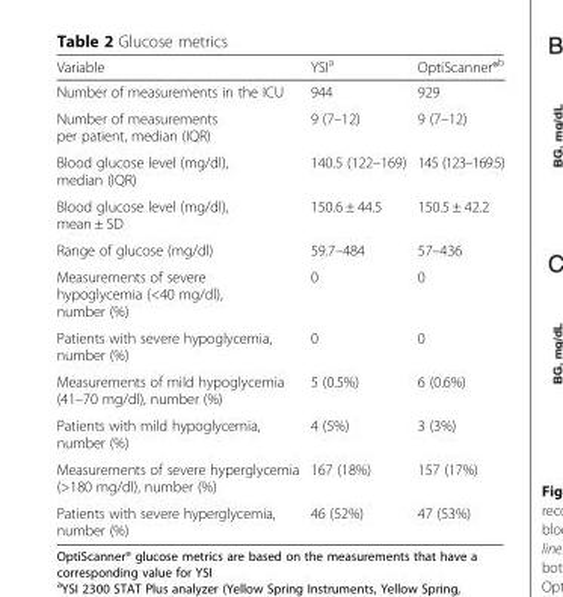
<table><thead><tr><td>Variable</td><td>YSI<sup>a</sup></td><td>OptiScanner®<sup>b</sup></td></tr></thead><tbody><tr><td>Number of measurements in the ICU</td><td>944</td><td>929</td></tr><tr><td>Number of measurements per patient, median (IQR)</td><td>9 (7–12)</td><td>9 (7–12)</td></tr><tr><td>Blood glucose level (mg/dl), median (IQR)</td><td>140.5 (122–169)</td><td>145 (123–169.5)</td></tr><tr><td>Blood glucose level (mg/dl), mean ± SD</td><td>150.6 ± 44.5</td><td>150.5 ± 42.2</td></tr><tr><td>Range of glucose (mg/dl)</td><td>59.7–484</td><td>57–436</td></tr><tr><td>Measurements of severe hypoglycemia (&lt;40 mg/dl), number (%)</td><td>0</td><td>0</td></tr><tr><td>Patients with severe hypoglycemia, number (%)</td><td>0</td><td>0</td></tr><tr><td>Measurements of mild hypoglycemia (41–70 mg/dl), number (%)</td><td>5 (0.5%)</td><td>6 (0.6%)</td></tr><tr><td>Patients with mild hypoglycemia, number (%)</td><td>4 (5%)</td><td>3 (3%)</td></tr><tr><td>Measurements of severe hyperglycemia (&gt;180 mg/dl), number (%)</td><td>167 (18%)</td><td>157 (17%)</td></tr><tr><td>Patients with severe hyperglycemia, number (%)</td><td>46 (52%)</td><td>47 (53%)</td></tr></tbody></table>